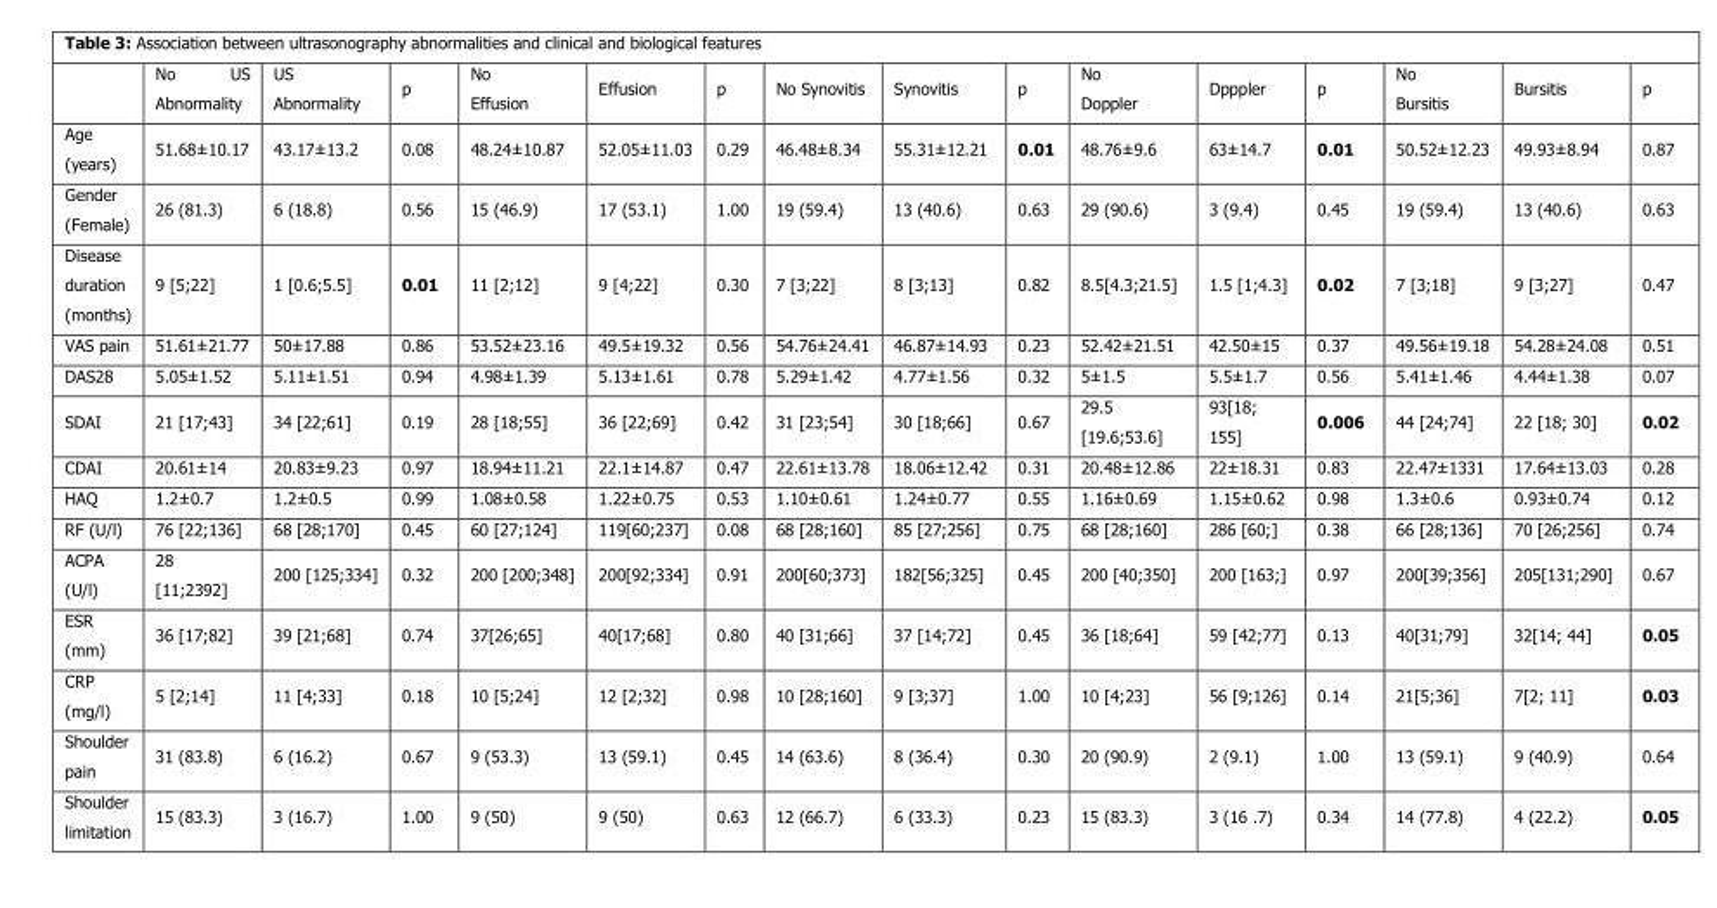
<table><thead><tr><td></td><td>No US Abnormality</td><td>US Abnormality</td><td>p</td><td>No Effusion</td><td>Effusion</td><td>p</td><td>No Synovitis</td><td>Synovitis</td><td>p</td><td>No Doppler</td><td>Dpppler</td><td>p</td><td>No Bursitis</td><td>Bursitis</td><td>p</td></tr></thead><tbody><tr><td>Age (years)</td><td>51.68±10.17</td><td>43.17±13.2</td><td>0.08</td><td>48.24±10.87</td><td>52.05±11.03</td><td>0.29</td><td>46.48±8.34</td><td>55.31±12.21</td><td>0.01</td><td>48.76±9.6</td><td>63±14.7</td><td>0.01</td><td>50.52±12.23</td><td>49.93±8.94</td><td>0.87</td></tr><tr><td>Gender (Female)</td><td>26 (81.3)</td><td>6 (18.8)</td><td>0.56</td><td>15 (46.9)</td><td>17 (53.1)</td><td>1.00</td><td>19 (59.4)</td><td>13 (40.6)</td><td>0.63</td><td>29 (90.6)</td><td>3 (9.4)</td><td>0.45</td><td>19 (59.4)</td><td>13 (40.6)</td><td>0.63</td></tr><tr><td>Disease duration (months)</td><td>9 [5;22]</td><td>1 [0.6;5.5]</td><td>0.01</td><td>11 [2;12]</td><td>9 [4;22]</td><td>0.30</td><td>7 [3;22]</td><td>8 [3;13]</td><td>0.82</td><td>8.5[4.3;21.5]</td><td>1.5 [1;4.3]</td><td>0.02</td><td>7 [3;18]</td><td>9 [3;27]</td><td>0.47</td></tr><tr><td>VAS pain</td><td>51.61±21.77</td><td>50±17.88</td><td>0.86</td><td>53.52±23.16</td><td>49.5±19.32</td><td>0.56</td><td>54.76±24.41</td><td>46.87±14.93</td><td>0.23</td><td>52.42±21.51</td><td>42.50±15</td><td>0.37</td><td>49.56±19.18</td><td>54.28±24.08</td><td>0.51</td></tr><tr><td>DAS28</td><td>5.05±1.52</td><td>5.11±1.51</td><td>0.94</td><td>4.98±1.39</td><td>5.13±1.61</td><td>0.78</td><td>5.29±1.42</td><td>4.77±1.56</td><td>0.32</td><td>5±1.5</td><td>5.5±1.7</td><td>0.56</td><td>5.41±1.46</td><td>4.44±1.38</td><td>0.07</td></tr><tr><td>SDAI</td><td>21 [17;43]</td><td>34 [22;61]</td><td>0.19</td><td>28 [18;55]</td><td>36 [22;69]</td><td>0.42</td><td>31 [23;54]</td><td>30 [18;66]</td><td>0.67</td><td>29.5 [19.6;53.6]</td><td>93[18; 155]</td><td>0.006</td><td>44 [24;74]</td><td>22 [18; 30]</td><td>0.02</td></tr><tr><td>CDAI</td><td>20.61±14</td><td>20.83±9.23</td><td>0.97</td><td>18.94±11.21</td><td>22.1±14.87</td><td>0.47</td><td>22.61±13.78</td><td>18.06±12.42</td><td>0.31</td><td>20.48±12.86</td><td>22±18.31</td><td>0.83</td><td>22.47±1331</td><td>17.64±13.03</td><td>0.28</td></tr><tr><td>HAQ</td><td>1.2±0.7</td><td>1.2±0.5</td><td>0.99</td><td>1.08±0.58</td><td>1.22±0.75</td><td>0.53</td><td>1.10±0.61</td><td>1.24±0.77</td><td>0.55</td><td>1.16±0.69</td><td>1.15±0.62</td><td>0.98</td><td>1.3±0.6</td><td>0.93±0.74</td><td>0.12</td></tr><tr><td>RF (U/l)</td><td>76 [22;136]</td><td>68 [28;170]</td><td>0.45</td><td>60 [27;124]</td><td>119[60;237]</td><td>0.08</td><td>68 [28;160]</td><td>85 [27;256]</td><td>0.75</td><td>68 [28;160]</td><td>286 [60;]</td><td>0.38</td><td>66 [28;136]</td><td>70 [26;256]</td><td>0.74</td></tr><tr><td>ACPA (U/l)</td><td>28 [11;2392]</td><td>200 [125;334]</td><td>0.32</td><td>200 [200;348]</td><td>200[92;334]</td><td>0.91</td><td>200[60;373]</td><td>182[56;325]</td><td>0.45</td><td>200 [40;350]</td><td>200 [163;]</td><td>0.97</td><td>200[39;356]</td><td>205[131;290]</td><td>0.67</td></tr><tr><td>ESR (mm)</td><td>36 [17;82]</td><td>39 [21;68]</td><td>0.74</td><td>37[26;65]</td><td>40[17;68]</td><td>0.80</td><td>40 [31;66]</td><td>37 [14;72]</td><td>0.45</td><td>36 [18;64]</td><td>59 [42;77]</td><td>0.13</td><td>40[31;79]</td><td>32[14; 44]</td><td>0.05</td></tr><tr><td>CRP (mg/l)</td><td>5 [2;14]</td><td>11 [4;33]</td><td>0.18</td><td>10 [5;24]</td><td>12 [2;32]</td><td>0.98</td><td>10 [28;160]</td><td>9 [3;37]</td><td>1.00</td><td>10 [4;23]</td><td>56 [9;126]</td><td>0.14</td><td>21[5;36]</td><td>7[2; 11]</td><td>0.03</td></tr><tr><td>Shoulder pain</td><td>31 (83.8)</td><td>6 (16.2)</td><td>0.67</td><td>9 (53.3)</td><td>13 (59.1)</td><td>0.45</td><td>14 (63.6)</td><td>8 (36.4)</td><td>0.30</td><td>20 (90.9)</td><td>2 (9.1)</td><td>1.00</td><td>13 (59.1)</td><td>9 (40.9)</td><td>0.64</td></tr><tr><td>Shoulder limitation</td><td>15 (83.3)</td><td>3 (16.7)</td><td>1.00</td><td>9 (50)</td><td>9 (50)</td><td>0.63</td><td>12 (66.7)</td><td>6 (33.3)</td><td>0.23</td><td>15 (83.3)</td><td>3 (16 .7)</td><td>0.34</td><td>14 (77.8)</td><td>4 (22.2)</td><td>0.05</td></tr></tbody></table>